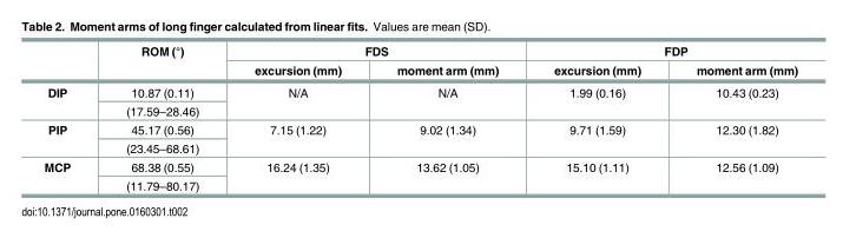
<table><thead><tr><td rowspan="2"></td><td rowspan="2">ROM (°)</td><td colspan="2">FDS</td><td colspan="2">FDP</td></tr><tr><td>excursion (mm)</td><td>moment arm (mm)</td><td>excursion (mm)</td><td>moment arm (mm)</td></tr></thead><tbody><tr><td rowspan="2">DIP</td><td>10.87 (0.11)</td><td rowspan="2">N/A</td><td rowspan="2">N/A</td><td rowspan="2">1.99 (0.16)</td><td rowspan="2">10.43 (0.23)</td></tr><tr><td>(17.59–28.46)</td></tr><tr><td rowspan="2">PIP</td><td>45.17 (0.56)</td><td rowspan="2">7.15 (1.22)</td><td rowspan="2">9.02 (1.34)</td><td rowspan="2">9.71 (1.59)</td><td rowspan="2">12.30 (1.82)</td></tr><tr><td>(23.45–68.61)</td></tr><tr><td rowspan="2">MCP</td><td>68.38 (0.55)</td><td rowspan="2">16.24 (1.35)</td><td rowspan="2">13.62 (1.05)</td><td rowspan="2">15.10 (1.11)</td><td rowspan="2">12.56 (1.09)</td></tr><tr><td>(11.79–80.17)</td></tr></tbody></table>